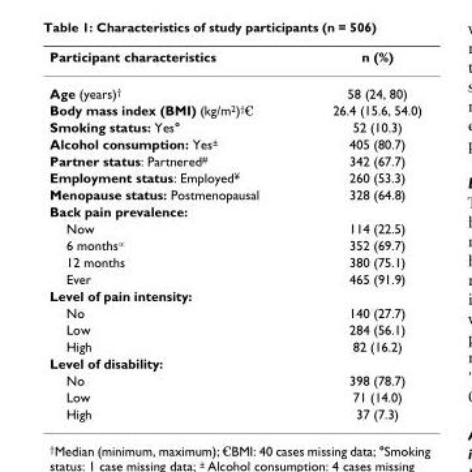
<table><thead><tr><td>Participant characteristics</td><td>n (%)</td></tr></thead><tbody><tr><td>Age (years)<sup>†</sup></td><td>58 (24, 80)</td></tr><tr><td>Body mass index (BMI) (kg/m<sup>2</sup>)<sup>†€</sup></td><td>26.4 (15.6, 54.0)</td></tr><tr><td>Smoking status: Yes°</td><td>52 (10.3)</td></tr><tr><td>Alcohol consumption: Yes<sup>±</sup></td><td>405 (80.7)</td></tr><tr><td>Partner status: Partnered<sup>#</sup></td><td>342 (67.7)</td></tr><tr><td>Employment status: Employed<sup>¥</sup></td><td>260 (53.3)</td></tr><tr><td>Menopause status: Postmenopausal</td><td>328 (64.8)</td></tr><tr><td colspan="2">Back pain prevalence:</td></tr><tr><td>Now</td><td>114 (22.5)</td></tr><tr><td>6 months<sup>∝</sup></td><td>352 (69.7)</td></tr><tr><td>12 months</td><td>380 (75.1)</td></tr><tr><td>Ever</td><td>465 (91.9)</td></tr><tr><td colspan="2">Level of pain intensity:</td></tr><tr><td>No</td><td>140 (27.7)</td></tr><tr><td>Low</td><td>284 (56.1)</td></tr><tr><td>High</td><td>82 (16.2)</td></tr><tr><td colspan="2">Level of disability:</td></tr><tr><td>No</td><td>398 (78.7)</td></tr><tr><td>Low</td><td>71 (14.0)</td></tr><tr><td>High</td><td>37 (7.3)</td></tr></tbody></table>